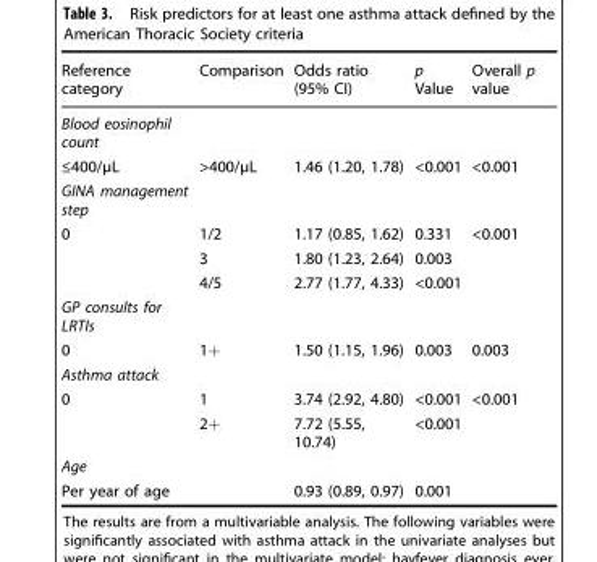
<table><thead><tr><td>Reference category</td><td>Comparison</td><td>Odds ratio (95% CI)</td><td>p Value</td><td>Overall p value</td></tr></thead><tbody><tr><td colspan="5">Blood eosinophil count</td></tr><tr><td>≤400/µL</td><td>&gt;400/µL</td><td>1.46 (1.20, 1.78)</td><td>&lt;0.001</td><td>&lt;0.001</td></tr><tr><td colspan="5">GINA management step</td></tr><tr><td rowspan="3">0</td><td>1/2</td><td>1.17 (0.85, 1.62)</td><td>0.331</td><td rowspan="3">&lt;0.001</td></tr><tr><td>3</td><td>1.80 (1.23, 2.64)</td><td>0.003</td></tr><tr><td>4/5</td><td>2.77 (1.77, 4.33)</td><td>&lt;0.001</td></tr><tr><td colspan="5">GP consults for LRTIs</td></tr><tr><td>0</td><td>1+</td><td>1.50 (1.15, 1.96)</td><td>0.003</td><td>0.003</td></tr><tr><td colspan="5">Asthma attack</td></tr><tr><td rowspan="2">0</td><td>1</td><td>3.74 (2.92, 4.80)</td><td>&lt;0.001</td><td rowspan="2">&lt;0.001</td></tr><tr><td>2+</td><td>7.72 (5.55, 10.74)</td><td>&lt;0.001</td></tr><tr><td colspan="5">Age</td></tr><tr><td colspan="2">Per year of age</td><td>0.93 (0.89, 0.97)</td><td>0.001</td><td></td></tr></tbody></table>